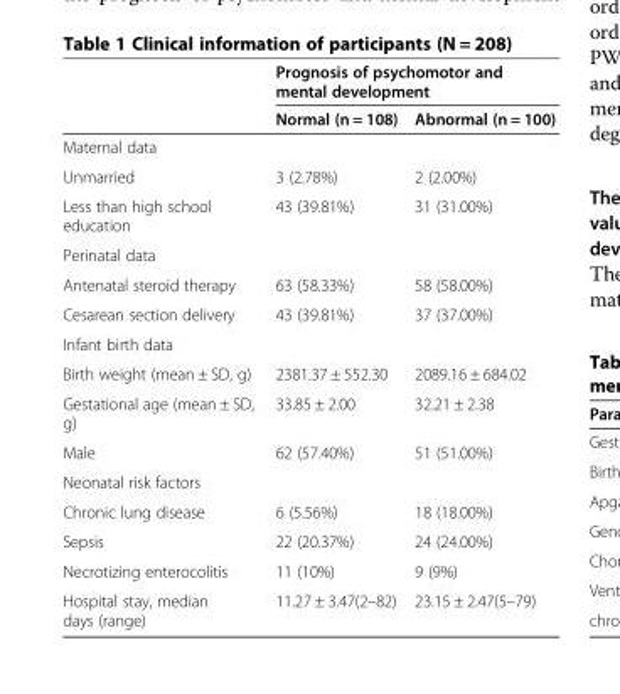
<table><thead><tr><td rowspan="2"></td><td colspan="2">Prognosis of psychomotor and mental development</td></tr><tr><td>Normal (n = 108)</td><td>Abnormal (n = 100)</td></tr></thead><tbody><tr><td colspan="3">Maternal data</td></tr><tr><td>Unmarried</td><td>3 (2.78%)</td><td>2 (2.00%)</td></tr><tr><td>Less than high school education</td><td>43 (39.81%)</td><td>31 (31.00%)</td></tr><tr><td colspan="3">Perinatal data</td></tr><tr><td>Antenatal steroid therapy</td><td>63 (58.33%)</td><td>58 (58.00%)</td></tr><tr><td>Cesarean section delivery</td><td>43 (39.81%)</td><td>37 (37.00%)</td></tr><tr><td colspan="3">Infant birth data</td></tr><tr><td>Birth weight (mean ± SD, g)</td><td>2381.37 ± 552.30</td><td>2089.16 ± 684.02</td></tr><tr><td>Gestational age (mean ± SD, g)</td><td>33.85 ± 2.00</td><td>32.21 ± 2.38</td></tr><tr><td>Male</td><td>62 (57.40%)</td><td>51 (51.00%)</td></tr><tr><td colspan="3">Neonatal risk factors</td></tr><tr><td>Chronic lung disease</td><td>6 (5.56%)</td><td>18 (18.00%)</td></tr><tr><td>Sepsis</td><td>22 (20.37%)</td><td>24 (24.00%)</td></tr><tr><td>Necrotizing enterocolitis</td><td>11 (10%)</td><td>9 (9%)</td></tr><tr><td>Hospital stay, median days (range)</td><td>11.27 ± 3.47(2–82)</td><td>23.15 ± 2.47(5–79)</td></tr></tbody></table>